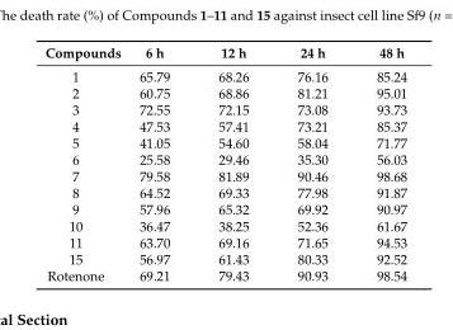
<table><thead><tr><td>Compounds</td><td>6 h</td><td>12 h</td><td>24 h</td><td>48 h</td></tr></thead><tbody><tr><td>1</td><td>65.79</td><td>68.26</td><td>76.16</td><td>85.24</td></tr><tr><td>2</td><td>60.75</td><td>68.86</td><td>81.21</td><td>95.01</td></tr><tr><td>3</td><td>72.55</td><td>72.15</td><td>73.08</td><td>93.73</td></tr><tr><td>4</td><td>47.53</td><td>57.41</td><td>73.21</td><td>85.37</td></tr><tr><td>5</td><td>41.05</td><td>54.60</td><td>58.04</td><td>71.77</td></tr><tr><td>6</td><td>25.58</td><td>29.46</td><td>35.30</td><td>56.03</td></tr><tr><td>7</td><td>79.58</td><td>81.89</td><td>90.46</td><td>98.68</td></tr><tr><td>8</td><td>64.52</td><td>69.33</td><td>77.98</td><td>91.87</td></tr><tr><td>9</td><td>57.96</td><td>65.32</td><td>69.92</td><td>90.97</td></tr><tr><td>10</td><td>36.47</td><td>38.25</td><td>52.36</td><td>61.67</td></tr><tr><td>11</td><td>63.70</td><td>69.16</td><td>71.65</td><td>94.53</td></tr><tr><td>15</td><td>56.97</td><td>61.43</td><td>80.33</td><td>92.52</td></tr><tr><td>Rotenone</td><td>69.21</td><td>79.43</td><td>90.93</td><td>98.54</td></tr></tbody></table>